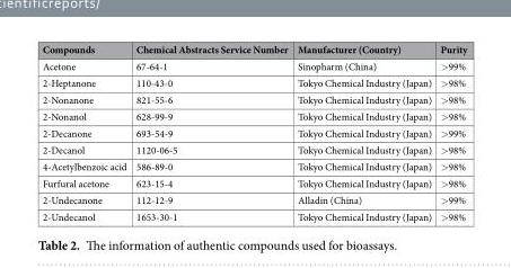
<table><thead><tr><td>Compounds</td><td>Chemical Abstracts Service Number</td><td>Manufacturer (Country)</td><td>Purity</td></tr></thead><tbody><tr><td>Acetone</td><td>67-64-1</td><td>Sinopharm (China)</td><td>&gt;99%</td></tr><tr><td>2-Heptanone</td><td>110-43-0</td><td>Tokyo Chemical Industry (Japan)</td><td>&gt;98%</td></tr><tr><td>2-Nonanone</td><td>821-55-6</td><td>Tokyo Chemical Industry (Japan)</td><td>&gt;98%</td></tr><tr><td>2-Nonanol</td><td>628-99-9</td><td>Tokyo Chemical Industry (Japan)</td><td>&gt;98%</td></tr><tr><td>2-Decanone</td><td>693-54-9</td><td>Tokyo Chemical Industry (Japan)</td><td>&gt;99%</td></tr><tr><td>2-Decanol</td><td>1120-06-5</td><td>Tokyo Chemical Industry (Japan)</td><td>&gt;98%</td></tr><tr><td>4-Acetylbenzoic acid</td><td>586-89-0</td><td>Tokyo Chemical Industry (Japan)</td><td>&gt;98%</td></tr><tr><td>Furfural acetone</td><td>623-15-4</td><td>Tokyo Chemical Industry (Japan)</td><td>&gt;98%</td></tr><tr><td>2-Undecanone</td><td>112-12-9</td><td>Alladin (China)</td><td>&gt;99%</td></tr><tr><td>2-Undecanol</td><td>1653-30-1</td><td>Tokyo Chemical Industry (Japan)</td><td>&gt;98%</td></tr></tbody></table>